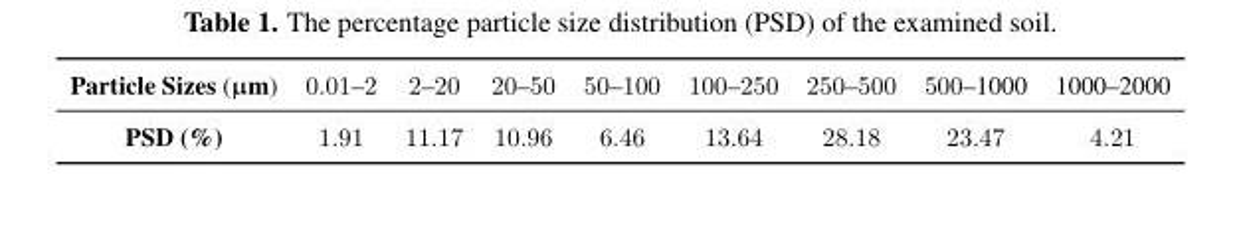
<table><tbody><tr><td>Particle Sizes (µm)</td><td>0.01–2</td><td>2–20</td><td>20–50</td><td>50–100</td><td>100–250</td><td>250–500</td><td>500–1000</td><td>1000–2000</td></tr><tr><td>PSD (%)</td><td>1.91</td><td>11.17</td><td>10.96</td><td>6.46</td><td>13.64</td><td>28.18</td><td>23.47</td><td>4.21</td></tr></tbody></table>